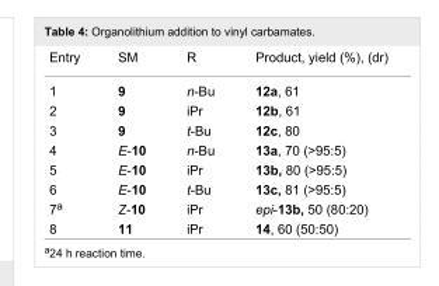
<table><tbody><tr><td>Entry</td><td>SM</td><td>R</td><td>Product, yield (%), (dr)</td></tr><tr><td>1</td><td>9</td><td>n-Bu</td><td>12a, 61</td></tr><tr><td>2</td><td>9</td><td>iPr</td><td>12b, 61</td></tr><tr><td>3</td><td>9</td><td>t-Bu</td><td>12c, 80</td></tr><tr><td>4</td><td>E-10</td><td>n-Bu</td><td>13a, 70 (&gt;95:5)</td></tr><tr><td>5</td><td>E-10</td><td>iPr</td><td>13b, 80 (&gt;95:5)</td></tr><tr><td>6</td><td>E-10</td><td>t-Bu</td><td>13c, 81 (&gt;95:5)</td></tr><tr><td>7<sup>a</sup></td><td>Z-10</td><td>iPr</td><td>epi-13b, 50 (80:20)</td></tr><tr><td>8</td><td>11</td><td>iPr</td><td>14, 60 (50:50)</td></tr></tbody></table>